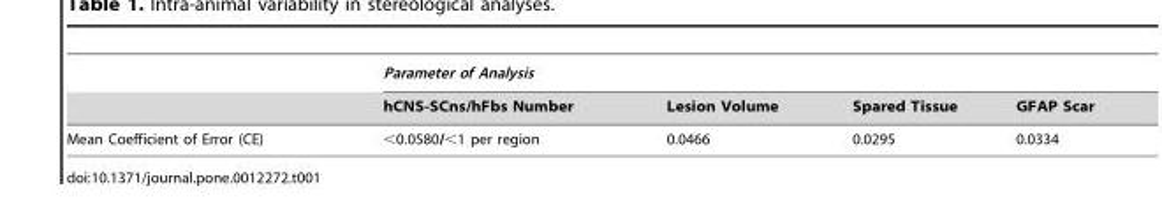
<table><thead><tr><td rowspan="2"></td><td colspan="4">Parameter of Analysis</td></tr><tr><td>hCNS-SCns/hFbs Number</td><td>Lesion Volume</td><td>Spared Tissue</td><td>GFAP Scar</td></tr></thead><tbody><tr><td>Mean Coefficient of Error (CE)</td><td>&lt;0.0580/&lt;1 per region</td><td>0.0466</td><td>0.0295</td><td>0.0334</td></tr></tbody></table>